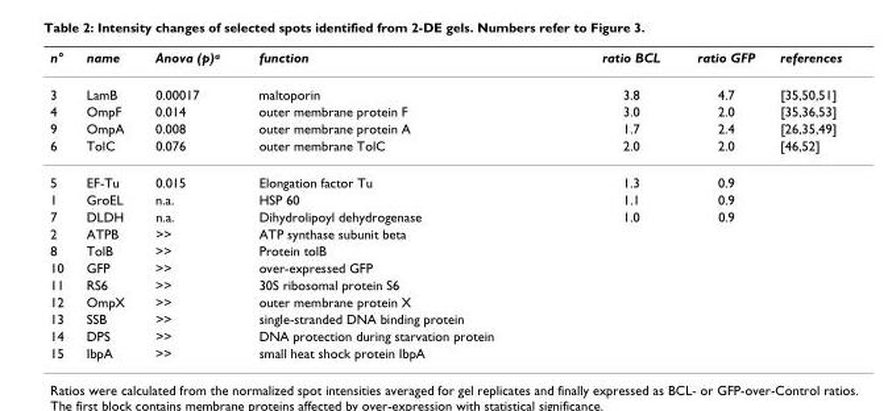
<table><thead><tr><td>n°</td><td>name</td><td>Anova (p)<sup>a</sup></td><td>function</td><td>ratio BCL</td><td>ratio GFP</td><td>references</td></tr></thead><tbody><tr><td>3</td><td>LamB</td><td>0.00017</td><td>maltoporin</td><td>3.8</td><td>4.7</td><td>[35,50,51]</td></tr><tr><td>4</td><td>OmpF</td><td>0.014</td><td>outer membrane protein F</td><td>3.0</td><td>2.0</td><td>[35,36,53]</td></tr><tr><td>9</td><td>OmpA</td><td>0.008</td><td>outer membrane protein A</td><td>1.7</td><td>2.4</td><td>[26,35,49]</td></tr><tr><td>6</td><td>TolC</td><td>0.076</td><td>outer membrane TolC</td><td>2.0</td><td>2.0</td><td>[46,52]</td></tr><tr><td>5</td><td>EF-Tu</td><td>0.015</td><td>Elongation factor Tu</td><td>1.3</td><td>0.9</td><td></td></tr><tr><td>1</td><td>GroEL</td><td>n.a.</td><td>HSP 60</td><td>1.1</td><td>0.9</td><td></td></tr><tr><td>7</td><td>DLDH</td><td>n.a.</td><td>Dihydrolipoyl dehydrogenase</td><td>1.0</td><td>0.9</td><td></td></tr><tr><td>2</td><td>ATPB</td><td>&gt;&gt;</td><td>ATP synthase subunit beta</td><td></td><td></td><td></td></tr><tr><td>8</td><td>TolB</td><td>&gt;&gt;</td><td>Protein tolB</td><td></td><td></td><td></td></tr><tr><td>10</td><td>GFP</td><td>&gt;&gt;</td><td>over-expressed GFP</td><td></td><td></td><td></td></tr><tr><td>11</td><td>RS6</td><td>&gt;&gt;</td><td>30S ribosomal protein S6</td><td></td><td></td><td></td></tr><tr><td>12</td><td>OmpX</td><td>&gt;&gt;</td><td>outer membrane protein X</td><td></td><td></td><td></td></tr><tr><td>13</td><td>SSB</td><td>&gt;&gt;</td><td>single-stranded DNA binding protein</td><td></td><td></td><td></td></tr><tr><td>14</td><td>DPS</td><td>&gt;&gt;</td><td>DNA protection during starvation protein</td><td></td><td></td><td></td></tr><tr><td>15</td><td>IbpA</td><td>&gt;&gt;</td><td>small heat shock protein IbpA</td><td></td><td></td><td></td></tr></tbody></table>